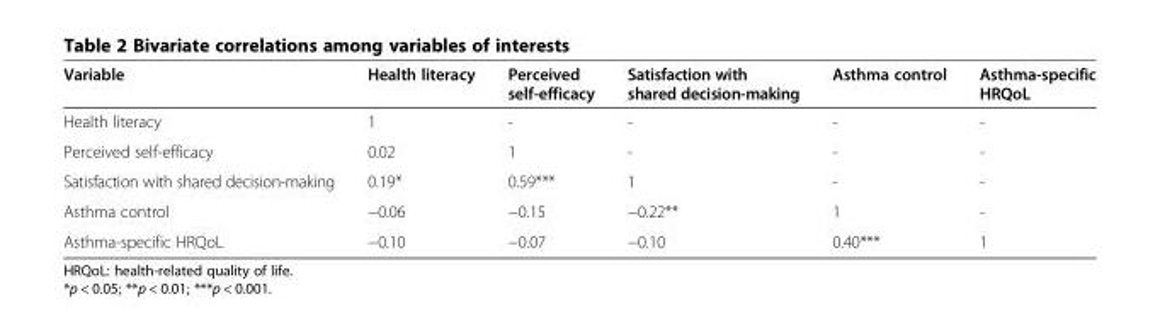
<table><thead><tr><td>Variable</td><td>Health literacy</td><td>Perceived self-efficacy</td><td>Satisfaction with shared decision-making</td><td>Asthma control</td><td>Asthma-specific HRQoL</td></tr></thead><tbody><tr><td>Health literacy</td><td>1</td><td>-</td><td>-</td><td>-</td><td>-</td></tr><tr><td>Perceived self-efficacy</td><td>0.02</td><td>1</td><td>-</td><td>-</td><td>-</td></tr><tr><td>Satisfaction with shared decision-making</td><td>0.19*</td><td>0.59***</td><td>1</td><td>-</td><td>-</td></tr><tr><td>Asthma control</td><td>−0.06</td><td>−0.15</td><td>−0.22**</td><td>1</td><td>-</td></tr><tr><td>Asthma-specific HRQoL</td><td>−0.10</td><td>−0.07</td><td>−0.10</td><td>0.40***</td><td>1</td></tr></tbody></table>